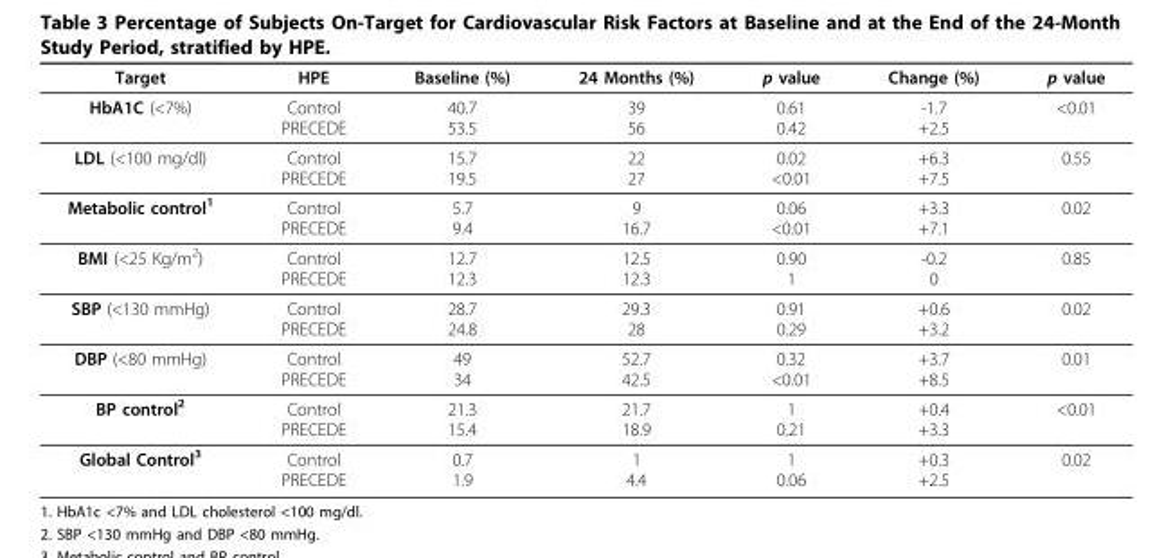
<table><thead><tr><td>Target</td><td>HPE</td><td>Baseline (%)</td><td>24 Months (%)</td><td>p value</td><td>Change (%)</td><td>p value</td></tr></thead><tbody><tr><td>HbA1C (&lt;7%)</td><td>Control PRECEDE</td><td>40.7 53.5</td><td>39 56</td><td>0.61 0.42</td><td>-1.7 +2.5</td><td>&lt;0.01</td></tr><tr><td>LDL (&lt;100 mg/dl)</td><td>Control PRECEDE</td><td>15.7 19.5</td><td>22 27</td><td>0.02 &lt;0.01</td><td>+6.3 +7.5</td><td>0.55</td></tr><tr><td>Metabolic control<sup>1</sup></td><td>Control PRECEDE</td><td>5.7 9.4</td><td>9 16.7</td><td>0.06 &lt;0.01</td><td>+3.3 +7.1</td><td>0.02</td></tr><tr><td>BMI (&lt;25 Kg/m<sup>2</sup>)</td><td>Control PRECEDE</td><td>12.7 12.3</td><td>12.5 12.3</td><td>0.90 1</td><td>-0.2 0</td><td>0.85</td></tr><tr><td>SBP (&lt;130 mmHg)</td><td>Control PRECEDE</td><td>28.7 24.8</td><td>29.3 28</td><td>0.91 0.29</td><td>+0.6 +3.2</td><td>0.02</td></tr><tr><td>DBP (&lt;80 mmHg)</td><td>Control PRECEDE</td><td>49 34</td><td>52.7 42.5</td><td>0.32 &lt;0.01</td><td>+3.7 +8.5</td><td>0.01</td></tr><tr><td>BP control<sup>2</sup></td><td>Control PRECEDE</td><td>21.3 15.4</td><td>21.7 18.9</td><td>1 0.21</td><td>+0.4 +3.3</td><td>&lt;0.01</td></tr><tr><td>Global Control<sup>3</sup></td><td>Control PRECEDE</td><td>0.7 1.9</td><td>1 4.4</td><td>1 0.06</td><td>+0.3 +2.5</td><td>0.02</td></tr></tbody></table>